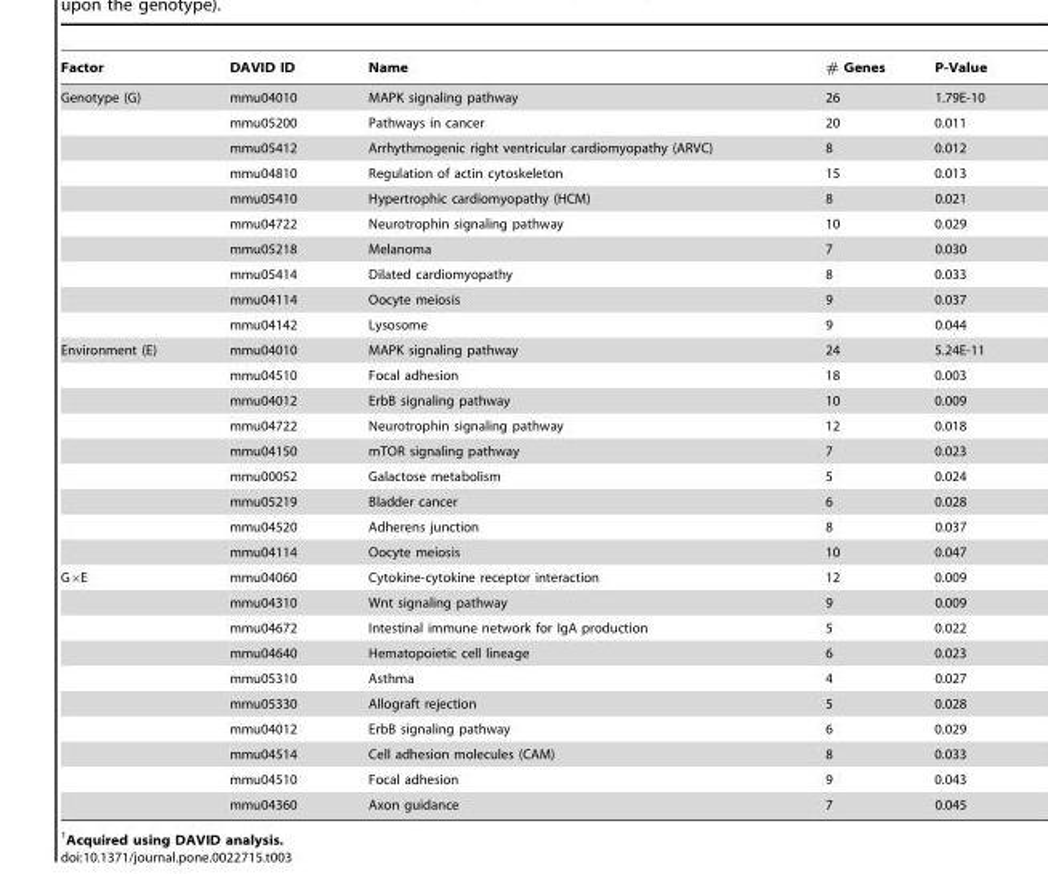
<table><thead><tr><td>Factor</td><td>DAVID ID</td><td>Name</td><td># Genes</td><td>P-Value</td></tr></thead><tbody><tr><td rowspan="10">Genotype (G)</td><td>mmu04010</td><td>MAPK signaling pathway</td><td>26</td><td>1.79E-10</td></tr><tr><td>mmu05200</td><td>Pathways in cancer</td><td>20</td><td>0.011</td></tr><tr><td>mmu05412</td><td>Arrhythmogenic right ventricular cardiomyopathy (ARVC)</td><td>8</td><td>0.012</td></tr><tr><td>mmu04810</td><td>Regulation of actin cytoskeleton</td><td>15</td><td>0.013</td></tr><tr><td>mmu05410</td><td>Hypertrophic cardiomyopathy (HCM)</td><td>8</td><td>0.021</td></tr><tr><td>mmu04722</td><td>Neurotrophin signaling pathway</td><td>10</td><td>0.029</td></tr><tr><td>mmu05218</td><td>Melanoma</td><td>7</td><td>0.030</td></tr><tr><td>mmu05414</td><td>Dilated cardiomyopathy</td><td>8</td><td>0.033</td></tr><tr><td>mmu04114</td><td>Oocyte meiosis</td><td>9</td><td>0.037</td></tr><tr><td>mmu04142</td><td>Lysosome</td><td>9</td><td>0.044</td></tr><tr><td rowspan="9">Environment (E)</td><td>mmu04010</td><td>MAPK signaling pathway</td><td>24</td><td>5.24E-11</td></tr><tr><td>mmu04510</td><td>Focal adhesion</td><td>18</td><td>0.003</td></tr><tr><td>mmu04012</td><td>ErbB signaling pathway</td><td>10</td><td>0.009</td></tr><tr><td>mmu04722</td><td>Neurotrophin signaling pathway</td><td>12</td><td>0.018</td></tr><tr><td>mmu04150</td><td>mTOR signaling pathway</td><td>7</td><td>0.023</td></tr><tr><td>mmu00052</td><td>Galactose metabolism</td><td>5</td><td>0.024</td></tr><tr><td>mmu05219</td><td>Bladder cancer</td><td>6</td><td>0.028</td></tr><tr><td>mmu04520</td><td>Adherens junction</td><td>8</td><td>0.037</td></tr><tr><td>mmu04114</td><td>Oocyte meiosis</td><td>10</td><td>0.047</td></tr><tr><td rowspan="10">G×E</td><td>mmu04060</td><td>Cytokine-cytokine receptor interaction</td><td>12</td><td>0.009</td></tr><tr><td>mmu04310</td><td>Wnt signaling pathway</td><td>9</td><td>0.009</td></tr><tr><td>mmu04672</td><td>Intestinal immune network for IgA production</td><td>5</td><td>0.022</td></tr><tr><td>mmu04640</td><td>Hematopoietic cell lineage</td><td>6</td><td>0.023</td></tr><tr><td>mmu05310</td><td>Asthma</td><td>4</td><td>0.027</td></tr><tr><td>mmu05330</td><td>Allograft rejection</td><td>5</td><td>0.028</td></tr><tr><td>mmu04012</td><td>ErbB signaling pathway</td><td>6</td><td>0.029</td></tr><tr><td>mmu04514</td><td>Cell adhesion molecules (CAM)</td><td>8</td><td>0.033</td></tr><tr><td>mmu04510</td><td>Focal adhesion</td><td>9</td><td>0.043</td></tr><tr><td>mmu04360</td><td>Axon guidance</td><td>7</td><td>0.045</td></tr></tbody></table>